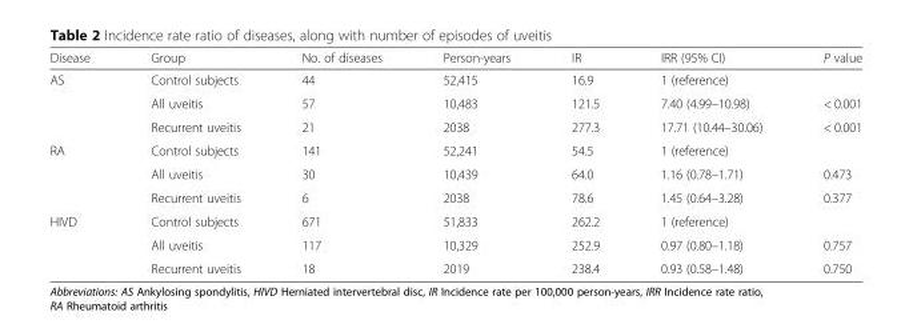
<table><thead><tr><td>Disease</td><td>Group</td><td>No. of diseases</td><td>Person-years</td><td>IR</td><td>IRR (95% CI)</td><td>P value</td></tr></thead><tbody><tr><td rowspan="3">AS</td><td>Control subjects</td><td>44</td><td>52,415</td><td>16.9</td><td>1 (reference)</td><td></td></tr><tr><td>All uveitis</td><td>57</td><td>10,483</td><td>121.5</td><td>7.40 (4.99–10.98)</td><td>&lt; 0.001</td></tr><tr><td>Recurrent uveitis</td><td>21</td><td>2038</td><td>277.3</td><td>17.71 (10.44–30.06)</td><td>&lt; 0.001</td></tr><tr><td rowspan="3">RA</td><td>Control subjects</td><td>141</td><td>52,241</td><td>54.5</td><td>1 (reference)</td><td></td></tr><tr><td>All uveitis</td><td>30</td><td>10,439</td><td>64.0</td><td>1.16 (0.78–1.71)</td><td>0.473</td></tr><tr><td>Recurrent uveitis</td><td>6</td><td>2038</td><td>78.6</td><td>1.45 (0.64–3.28)</td><td>0.377</td></tr><tr><td rowspan="3">HIVD</td><td>Control subjects</td><td>671</td><td>51,833</td><td>262.2</td><td>1 (reference)</td><td></td></tr><tr><td>All uveitis</td><td>117</td><td>10,329</td><td>252.9</td><td>0.97 (0.80–1.18)</td><td>0.757</td></tr><tr><td>Recurrent uveitis</td><td>18</td><td>2019</td><td>238.4</td><td>0.93 (0.58–1.48)</td><td>0.750</td></tr></tbody></table>